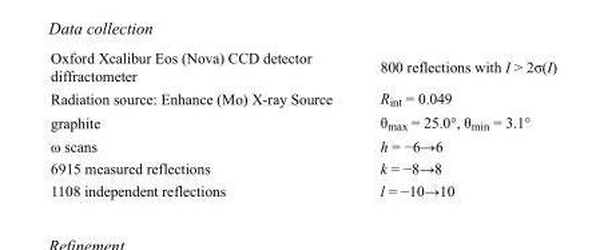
<table><tbody><tr><td>Oxford Xcalibur Eos (Nova) CCD detector diffractometer</td><td>800 reflections with I &gt; 2σ(I)</td></tr><tr><td>Radiation source: Enhance (Mo) X-ray Source</td><td>R<sub>int</sub> = 0.049</td></tr><tr><td>graphite</td><td>θ<sub>max</sub> = 25.0°, θ<sub>min</sub> = 3.1°</td></tr><tr><td>ω scans</td><td>h = −6→6</td></tr><tr><td>6915 measured reflections</td><td>k = −8→8</td></tr><tr><td>1108 independent reflections</td><td>l = −10→10</td></tr></tbody></table>